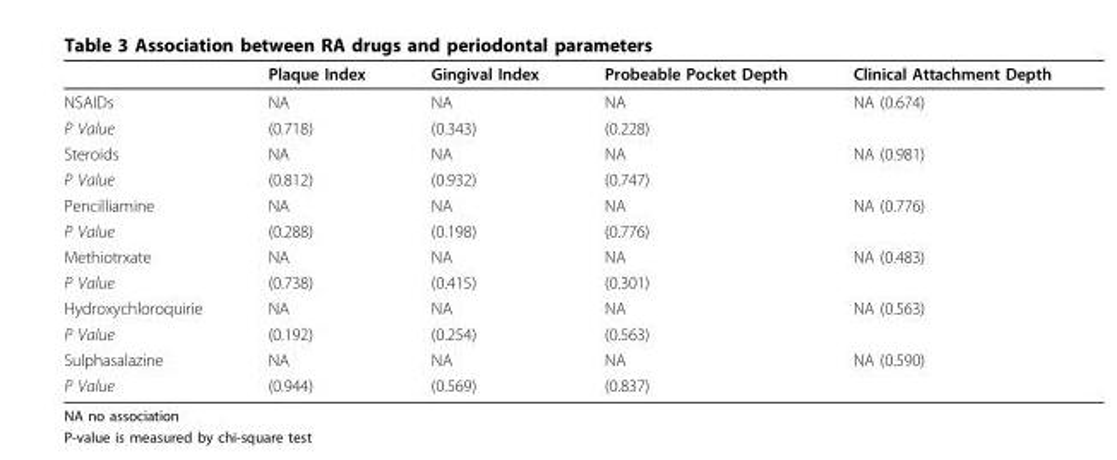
<table><thead><tr><td></td><td>Plaque Index</td><td>Gingival Index</td><td>Probeable Pocket Depth</td><td>Clinical Attachment Depth</td></tr></thead><tbody><tr><td>NSAIDs</td><td>NA</td><td>NA</td><td>NA</td><td>NA (0.674)</td></tr><tr><td>P Value</td><td>(0.718)</td><td>(0.343)</td><td>(0.228)</td><td></td></tr><tr><td>Steroids</td><td>NA</td><td>NA</td><td>NA</td><td>NA (0.981)</td></tr><tr><td>P Value</td><td>(0.812)</td><td>(0.932)</td><td>(0.747)</td><td></td></tr><tr><td>Pencilliamine</td><td>NA</td><td>NA</td><td>NA</td><td>NA (0.776)</td></tr><tr><td>P Value</td><td>(0.288)</td><td>(0.198)</td><td>(0.776)</td><td></td></tr><tr><td>Methiotrxate</td><td>NA</td><td>NA</td><td>NA</td><td>NA (0.483)</td></tr><tr><td>P Value</td><td>(0.738)</td><td>(0.415)</td><td>(0.301)</td><td></td></tr><tr><td>Hydroxychloroquirie</td><td>NA</td><td>NA</td><td>NA</td><td>NA (0.563)</td></tr><tr><td>P Value</td><td>(0.192)</td><td>(0.254)</td><td>(0.563)</td><td></td></tr><tr><td>Sulphasalazine</td><td>NA</td><td>NA</td><td>NA</td><td>NA (0.590)</td></tr><tr><td>P Value</td><td>(0.944)</td><td>(0.569)</td><td>(0.837)</td><td></td></tr></tbody></table>